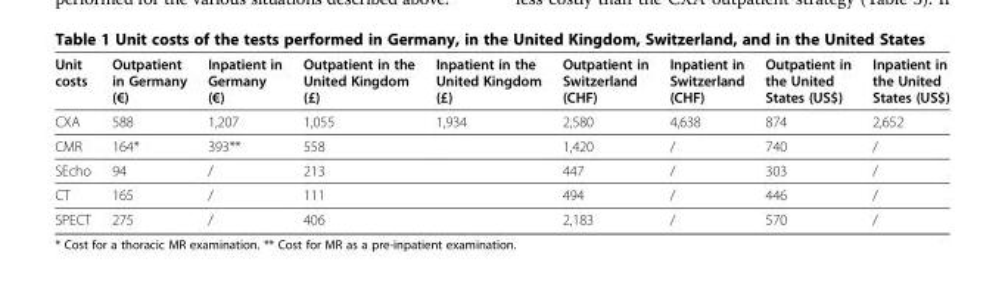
<table><thead><tr><td>Unit costs</td><td>Outpatient in Germany (€)</td><td>Inpatient in Germany (€)</td><td>Outpatient in the United Kingdom (£)</td><td>Inpatient in the United Kingdom (£)</td><td>Outpatient in Switzerland (CHF)</td><td>Inpatient in Switzerland (CHF)</td><td>Outpatient in the United States (US$)</td><td>Inpatient in the United States (US$)</td></tr></thead><tbody><tr><td>CXA</td><td>588</td><td>1,207</td><td>1,055</td><td>1,934</td><td>2,580</td><td>4,638</td><td>874</td><td>2,652</td></tr><tr><td>CMR</td><td>164*</td><td>393**</td><td>558</td><td></td><td>1,420</td><td>/</td><td>740</td><td>/</td></tr><tr><td>SEcho</td><td>94</td><td>/</td><td>213</td><td></td><td>447</td><td>/</td><td>303</td><td>/</td></tr><tr><td>CT</td><td>165</td><td>/</td><td>111</td><td></td><td>494</td><td>/</td><td>446</td><td>/</td></tr><tr><td>SPECT</td><td>275</td><td>/</td><td>406</td><td></td><td>2,183</td><td>/</td><td>570</td><td>/</td></tr></tbody></table>